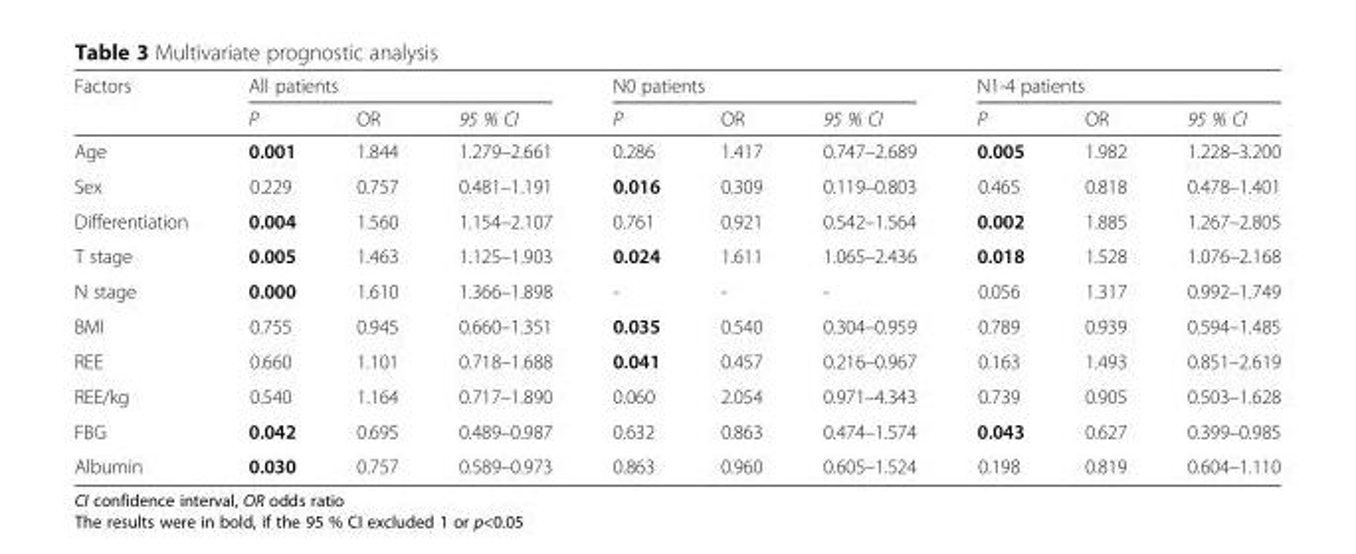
<table><thead><tr><td rowspan="2">Factors</td><td colspan="3">All patients</td><td colspan="3">N0 patients</td><td colspan="3">N1-4 patients</td></tr><tr><td>P</td><td>OR</td><td>95 % CI</td><td>P</td><td>OR</td><td>95 % CI</td><td>P</td><td>OR</td><td>95 % CI</td></tr></thead><tbody><tr><td>Age</td><td>0.001</td><td>1.844</td><td>1.279–2.661</td><td>0.286</td><td>1.417</td><td>0.747–2.689</td><td>0.005</td><td>1.982</td><td>1.228–3.200</td></tr><tr><td>Sex</td><td>0.229</td><td>0.757</td><td>0.481–1.191</td><td>0.016</td><td>0.309</td><td>0.119–0.803</td><td>0.465</td><td>0.818</td><td>0.478–1.401</td></tr><tr><td>Differentiation</td><td>0.004</td><td>1.560</td><td>1.154–2.107</td><td>0.761</td><td>0.921</td><td>0.542–1.564</td><td>0.002</td><td>1.885</td><td>1.267–2.805</td></tr><tr><td>T stage</td><td>0.005</td><td>1.463</td><td>1.125–1.903</td><td>0.024</td><td>1.611</td><td>1.065–2.436</td><td>0.018</td><td>1.528</td><td>1.076–2.168</td></tr><tr><td>N stage</td><td>0.000</td><td>1.610</td><td>1.366–1.898</td><td>-</td><td>-</td><td>-</td><td>0.056</td><td>1.317</td><td>0.992–1.749</td></tr><tr><td>BMI</td><td>0.755</td><td>0.945</td><td>0.660–1.351</td><td>0.035</td><td>0.540</td><td>0.304–0.959</td><td>0.789</td><td>0.939</td><td>0.594–1.485</td></tr><tr><td>REE</td><td>0.660</td><td>1.101</td><td>0.718–1.688</td><td>0.041</td><td>0.457</td><td>0.216–0.967</td><td>0.163</td><td>1.493</td><td>0.851–2.619</td></tr><tr><td>REE/kg</td><td>0.540</td><td>1.164</td><td>0.717–1.890</td><td>0.060</td><td>2.054</td><td>0.971–4.343</td><td>0.739</td><td>0.905</td><td>0.503–1.628</td></tr><tr><td>FBG</td><td>0.042</td><td>0.695</td><td>0.489–0.987</td><td>0.632</td><td>0.863</td><td>0.474–1.574</td><td>0.043</td><td>0.627</td><td>0.399–0.985</td></tr><tr><td>Albumin</td><td>0.030</td><td>0.757</td><td>0.589–0.973</td><td>0.863</td><td>0.960</td><td>0.605–1.524</td><td>0.198</td><td>0.819</td><td>0.604–1.110</td></tr></tbody></table>